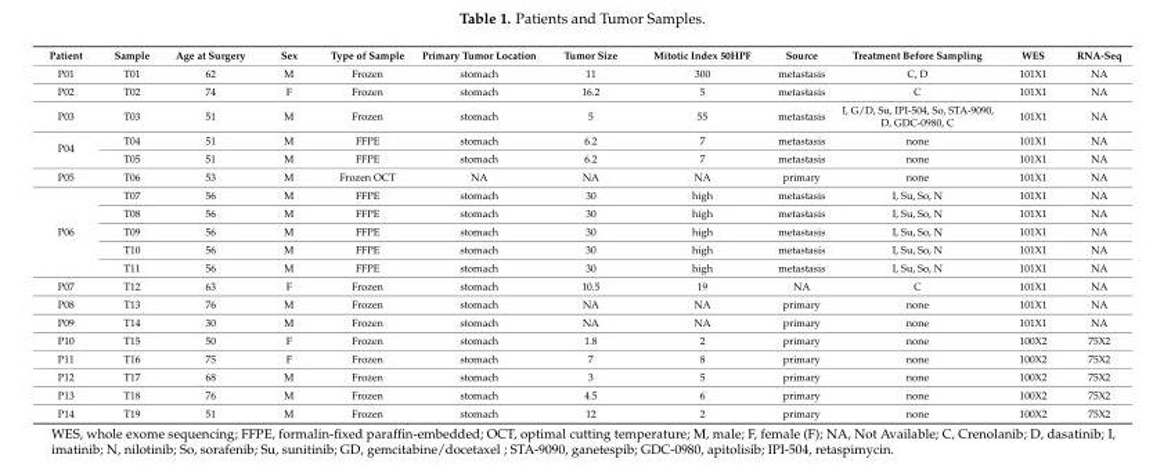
<table><thead><tr><td>Patient</td><td>Sample</td><td>Age at Surgery</td><td>Sex</td><td>Type of Sample</td><td>Primary Tumor Location</td><td>Tumor Size</td><td>Mitotic Index 50HPF</td><td>Source</td><td>Treatment Before Sampling</td><td>WES</td><td>RNA-Seq</td></tr></thead><tbody><tr><td>P01</td><td>T01</td><td>62</td><td>M</td><td>Frozen</td><td>stomach</td><td>11</td><td>300</td><td>metastasis</td><td>C, D</td><td>101X1</td><td>NA</td></tr><tr><td>P02</td><td>T02</td><td>74</td><td>F</td><td>Frozen</td><td>stomach</td><td>16.2</td><td>5</td><td>metastasis</td><td>C</td><td>101X1</td><td>NA</td></tr><tr><td>P03</td><td>T03</td><td>51</td><td>M</td><td>Frozen</td><td>stomach</td><td>5</td><td>55</td><td>metastasis</td><td>I, G/D, Su, IPI-504, So, STA-9090, D, GDC-0980, C</td><td>101X1</td><td>NA</td></tr><tr><td rowspan="2">P04</td><td>T04</td><td>51</td><td>M</td><td>FFPE</td><td>stomach</td><td>6.2</td><td>7</td><td>metastasis</td><td>none</td><td>101X1</td><td>NA</td></tr><tr><td>T05</td><td>51</td><td>M</td><td>FFPE</td><td>stomach</td><td>6.2</td><td>7</td><td>metastasis</td><td>none</td><td>101X1</td><td>NA</td></tr><tr><td>P05</td><td>T06</td><td>53</td><td>M</td><td>Frozen OCT</td><td>NA</td><td>NA</td><td>NA</td><td>primary</td><td>none</td><td>101X1</td><td>NA</td></tr><tr><td rowspan="5">P06</td><td>T07</td><td>56</td><td>M</td><td>FFPE</td><td>stomach</td><td>30</td><td>high</td><td>metastasis</td><td>I, Su, So, N</td><td>101X1</td><td>NA</td></tr><tr><td>T08</td><td>56</td><td>M</td><td>FFPE</td><td>stomach</td><td>30</td><td>high</td><td>metastasis</td><td>I, Su, So, N</td><td>101X1</td><td>NA</td></tr><tr><td>T09</td><td>56</td><td>M</td><td>FFPE</td><td>stomach</td><td>30</td><td>high</td><td>metastasis</td><td>I, Su, So, N</td><td>101X1</td><td>NA</td></tr><tr><td>T10</td><td>56</td><td>M</td><td>FFPE</td><td>stomach</td><td>30</td><td>high</td><td>metastasis</td><td>I, Su, So, N</td><td>101X1</td><td>NA</td></tr><tr><td>T11</td><td>56</td><td>M</td><td>FFPE</td><td>stomach</td><td>30</td><td>high</td><td>metastasis</td><td>I, Su, So, N</td><td>101X1</td><td>NA</td></tr><tr><td>P07</td><td>T12</td><td>63</td><td>F</td><td>Frozen</td><td>stomach</td><td>10.5</td><td>19</td><td>NA</td><td>C</td><td>101X1</td><td>NA</td></tr><tr><td>P08</td><td>T13</td><td>76</td><td>M</td><td>Frozen</td><td>stomach</td><td>NA</td><td>NA</td><td>primary</td><td>none</td><td>101X1</td><td>NA</td></tr><tr><td>P09</td><td>T14</td><td>30</td><td>M</td><td>Frozen</td><td>stomach</td><td>NA</td><td>NA</td><td>primary</td><td>none</td><td>101X1</td><td>NA</td></tr><tr><td>P10</td><td>T15</td><td>50</td><td>F</td><td>Frozen</td><td>stomach</td><td>1.8</td><td>2</td><td>primary</td><td>none</td><td>100X2</td><td>75X2</td></tr><tr><td>P11</td><td>T16</td><td>75</td><td>F</td><td>Frozen</td><td>stomach</td><td>7</td><td>8</td><td>primary</td><td>none</td><td>100X2</td><td>75X2</td></tr><tr><td>P12</td><td>T17</td><td>68</td><td>M</td><td>Frozen</td><td>stomach</td><td>3</td><td>5</td><td>primary</td><td>none</td><td>100X2</td><td>75X2</td></tr><tr><td>P13</td><td>T18</td><td>76</td><td>M</td><td>Frozen</td><td>stomach</td><td>4.5</td><td>6</td><td>primary</td><td>none</td><td>100X2</td><td>75X2</td></tr><tr><td>P14</td><td>T19</td><td>51</td><td>M</td><td>Frozen</td><td>stomach</td><td>12</td><td>2</td><td>primary</td><td>none</td><td>100X2</td><td>75X2</td></tr></tbody></table>